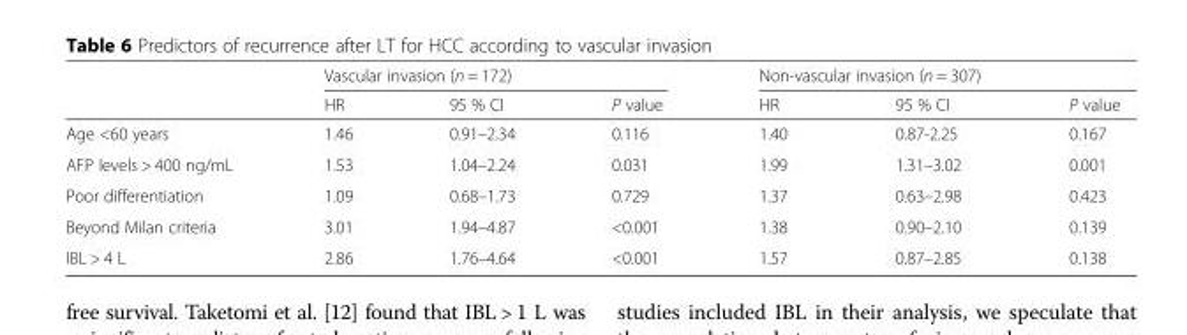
<table><thead><tr><td rowspan="2"></td><td colspan="3">Vascular invasion (n = 172)</td><td colspan="3">Non-vascular invasion (n = 307)</td></tr><tr><td>HR</td><td>95 % CI</td><td>P value</td><td>HR</td><td>95 % CI</td><td>P value</td></tr></thead><tbody><tr><td>Age &lt;60 years</td><td>1.46</td><td>0.91–2.34</td><td>0.116</td><td>1.40</td><td>0.87-2.25</td><td>0.167</td></tr><tr><td>AFP levels &gt; 400 ng/mL</td><td>1.53</td><td>1.04–2.24</td><td>0.031</td><td>1.99</td><td>1.31–3.02</td><td>0.001</td></tr><tr><td>Poor differentiation</td><td>1.09</td><td>0.68–1.73</td><td>0.729</td><td>1.37</td><td>0.63–2.98</td><td>0.423</td></tr><tr><td>Beyond Milan criteria</td><td>3.01</td><td>1.94–4.87</td><td>&lt;0.001</td><td>1.38</td><td>0.90–2.10</td><td>0.139</td></tr><tr><td>IBL &gt; 4 L</td><td>2.86</td><td>1.76–4.64</td><td>&lt;0.001</td><td>1.57</td><td>0.87–2.85</td><td>0.138</td></tr></tbody></table>